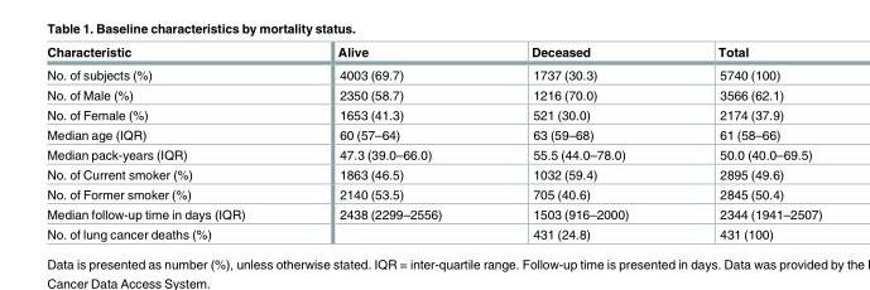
<table><thead><tr><td>Characteristic</td><td>Alive</td><td>Deceased</td><td>Total</td></tr></thead><tbody><tr><td>No. of subjects (%)</td><td>4003 (69.7)</td><td>1737 (30.3)</td><td>5740 (100)</td></tr><tr><td>No. of Male (%)</td><td>2350 (58.7)</td><td>1216 (70.0)</td><td>3566 (62.1)</td></tr><tr><td>No. of Female (%)</td><td>1653 (41.3)</td><td>521 (30.0)</td><td>2174 (37.9)</td></tr><tr><td>Median age (IQR)</td><td>60 (57–64)</td><td>63 (59–68)</td><td>61 (58–66)</td></tr><tr><td>Median pack-years (IQR)</td><td>47.3 (39.0–66.0)</td><td>55.5 (44.0–78.0)</td><td>50.0 (40.0–69.5)</td></tr><tr><td>No. of Current smoker (%)</td><td>1863 (46.5)</td><td>1032 (59.4)</td><td>2895 (49.6)</td></tr><tr><td>No. of Former smoker (%)</td><td>2140 (53.5)</td><td>705 (40.6)</td><td>2845 (50.4)</td></tr><tr><td>Median follow-up time in days (IQR)</td><td>2438 (2299–2556)</td><td>1503 (916–2000)</td><td>2344 (1941–2507)</td></tr><tr><td>No. of lung cancer deaths (%)</td><td></td><td>431 (24.8)</td><td>431 (100)</td></tr></tbody></table>